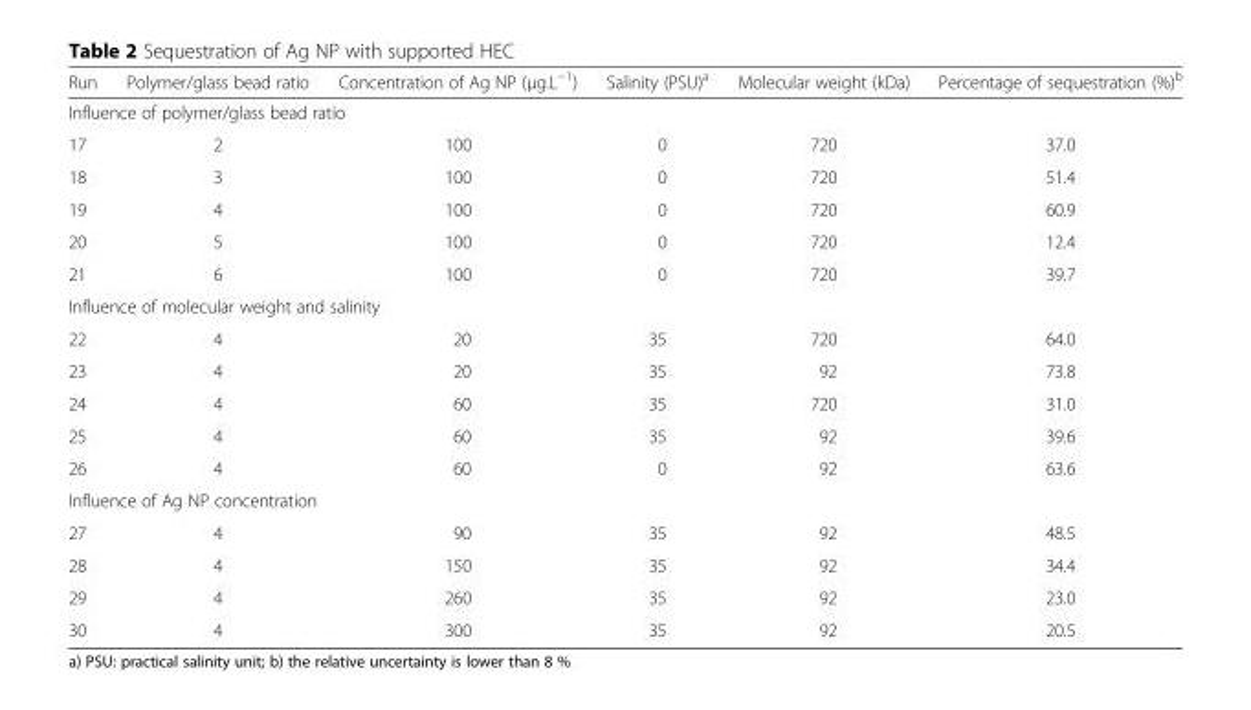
<table><thead><tr><td>Run</td><td>Polymer/glass bead ratio</td><td>Concentration of Ag NP (μg.L<sup>−1</sup>)</td><td>Salinity (PSU)<sup>a</sup></td><td>Molecular weight (kDa)</td><td>Percentage of sequestration (%)<sup>b</sup></td></tr></thead><tbody><tr><td colspan="6">Influence of polymer/glass bead ratio</td></tr><tr><td>17</td><td>2</td><td>100</td><td>0</td><td>720</td><td>37.0</td></tr><tr><td>18</td><td>3</td><td>100</td><td>0</td><td>720</td><td>51.4</td></tr><tr><td>19</td><td>4</td><td>100</td><td>0</td><td>720</td><td>60.9</td></tr><tr><td>20</td><td>5</td><td>100</td><td>0</td><td>720</td><td>12.4</td></tr><tr><td>21</td><td>6</td><td>100</td><td>0</td><td>720</td><td>39.7</td></tr><tr><td colspan="6">Influence of molecular weight and salinity</td></tr><tr><td>22</td><td>4</td><td>20</td><td>35</td><td>720</td><td>64.0</td></tr><tr><td>23</td><td>4</td><td>20</td><td>35</td><td>92</td><td>73.8</td></tr><tr><td>24</td><td>4</td><td>60</td><td>35</td><td>720</td><td>31.0</td></tr><tr><td>25</td><td>4</td><td>60</td><td>35</td><td>92</td><td>39.6</td></tr><tr><td>26</td><td>4</td><td>60</td><td>0</td><td>92</td><td>63.6</td></tr><tr><td colspan="6">Influence of Ag NP concentration</td></tr><tr><td>27</td><td>4</td><td>90</td><td>35</td><td>92</td><td>48.5</td></tr><tr><td>28</td><td>4</td><td>150</td><td>35</td><td>92</td><td>34.4</td></tr><tr><td>29</td><td>4</td><td>260</td><td>35</td><td>92</td><td>23.0</td></tr><tr><td>30</td><td>4</td><td>300</td><td>35</td><td>92</td><td>20.5</td></tr></tbody></table>